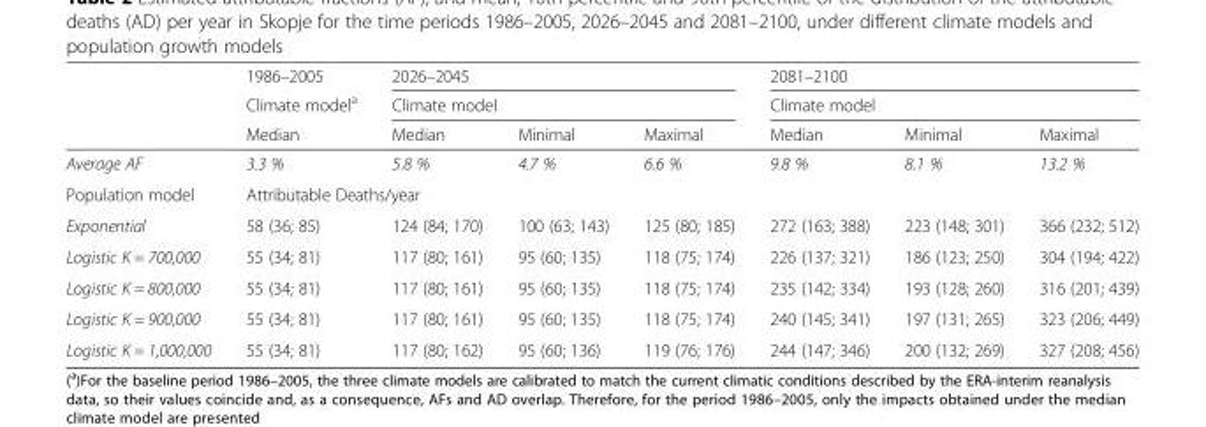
<table><thead><tr><td rowspan="3"></td><td rowspan="3">1986–2005 Climate model<sup>a</sup> Median</td><td rowspan="2" colspan="3">2026–2045 Climate model</td><td rowspan="2" colspan="3">2081–2100 Climate model</td></tr><tr></tr><tr><td>Median</td><td>Minimal</td><td>Maximal</td><td>Median</td><td>Minimal</td><td>Maximal</td></tr></thead><tbody><tr><td>Average AF</td><td>3.3 %</td><td>5.8 %</td><td>4.7 %</td><td>6.6 %</td><td>9.8 %</td><td>8.1 %</td><td>13.2 %</td></tr><tr><td>Population model</td><td colspan="7">Attributable Deaths/year</td></tr><tr><td>Exponential</td><td>58 (36; 85)</td><td>124 (84; 170)</td><td>100 (63; 143)</td><td>125 (80; 185)</td><td>272 (163; 388)</td><td>223 (148; 301)</td><td>366 (232; 512)</td></tr><tr><td>Logistic K = 700,000</td><td>55 (34; 81)</td><td>117 (80; 161)</td><td>95 (60; 135)</td><td>118 (75; 174)</td><td>226 (137; 321)</td><td>186 (123; 250)</td><td>304 (194; 422)</td></tr><tr><td>Logistic K = 800,000</td><td>55 (34; 81)</td><td>117 (80; 161)</td><td>95 (60; 135)</td><td>118 (75; 174)</td><td>235 (142; 334)</td><td>193 (128; 260)</td><td>316 (201; 439)</td></tr><tr><td>Logistic K = 900,000</td><td>55 (34; 81)</td><td>117 (80; 161)</td><td>95 (60; 135)</td><td>118 (75; 174)</td><td>240 (145; 341)</td><td>197 (131; 265)</td><td>323 (206; 449)</td></tr><tr><td>Logistic K = 1,000,000</td><td>55 (34; 81)</td><td>117 (80; 162)</td><td>95 (60; 136)</td><td>119 (76; 176)</td><td>244 (147; 346)</td><td>200 (132; 269)</td><td>327 (208; 456)</td></tr></tbody></table>